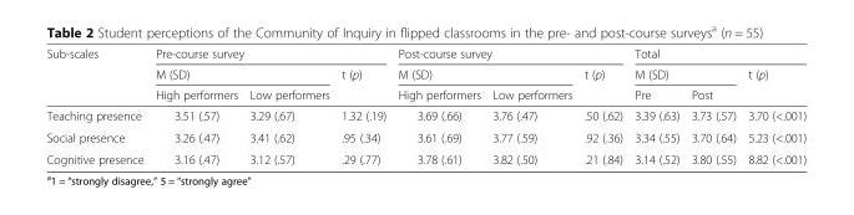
<table><thead><tr><td rowspan="3">Sub-scales</td><td colspan="3">Pre-course survey</td><td colspan="3">Post-course survey</td><td colspan="3">Total</td></tr><tr><td colspan="2">M (SD)</td><td rowspan="2">t (p)</td><td colspan="2">M (SD)</td><td rowspan="2">t (p)</td><td colspan="2">M (SD)</td><td rowspan="2">t (p)</td></tr><tr><td>High performers</td><td>Low performers</td><td>High performers</td><td>Low performers</td><td>Pre</td><td>Post</td></tr></thead><tbody><tr><td>Teaching presence</td><td>3.51 (.57)</td><td>3.29 (.67)</td><td>1.32 (.19)</td><td>3.69 (.66)</td><td>3.76 (.47)</td><td>.50 (.62)</td><td>3.39 (.63)</td><td>3.73 (.57)</td><td>3.70 (&lt;.001)</td></tr><tr><td>Social presence</td><td>3.26 (.47)</td><td>3.41 (.62)</td><td>.95 (.34)</td><td>3.61 (.69)</td><td>3.77 (.59)</td><td>.92 (.36)</td><td>3.34 (.55)</td><td>3.70 (.64)</td><td>5.23 (&lt;.001)</td></tr><tr><td>Cognitive presence</td><td>3.16 (.47)</td><td>3.12 (.57)</td><td>.29 (.77)</td><td>3.78 (.61)</td><td>3.82 (.50)</td><td>.21 (.84)</td><td>3.14 (.52)</td><td>3.80 (.55)</td><td>8.82 (&lt;.001)</td></tr></tbody></table>